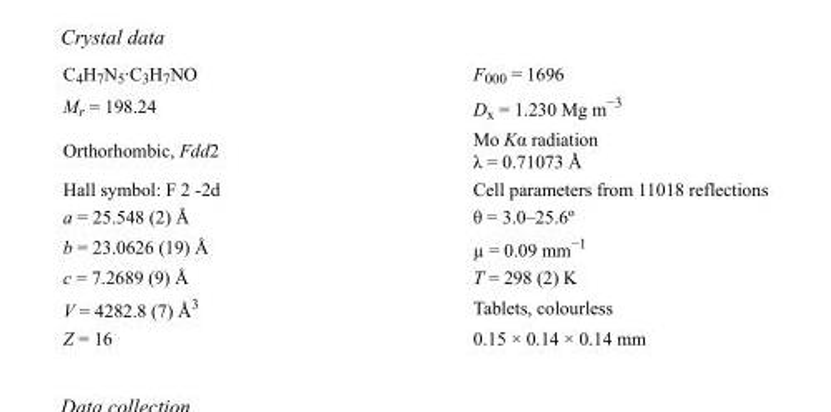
<table><tbody><tr><td>C<sub>4</sub>H<sub>7</sub>N<sub>5</sub>·C<sub>3</sub>H<sub>7</sub>NO</td><td>F<sub>000</sub> = 1696</td></tr><tr><td>M<sub>r</sub> = 198.24</td><td>D<sub>x</sub> = 1.230 Mg m<sup>−3</sup></td></tr><tr><td>Orthorhombic, Fdd2</td><td>Mo Kα radiation λ = 0.71073 Å</td></tr><tr><td>Hall symbol: F 2 -2d</td><td>Cell parameters from 11018 reflections</td></tr><tr><td>a = 25.548 (2) Å</td><td>θ = 3.0–25.6º</td></tr><tr><td>b = 23.0626 (19) Å</td><td>µ = 0.09 mm<sup>−1</sup></td></tr><tr><td>c = 7.2689 (9) Å</td><td>T = 298 (2) K</td></tr><tr><td>V = 4282.8 (7) Å<sup>3</sup></td><td>Tablets, colourless</td></tr><tr><td>Z = 16</td><td>0.15 × 0.14 × 0.14 mm</td></tr></tbody></table>